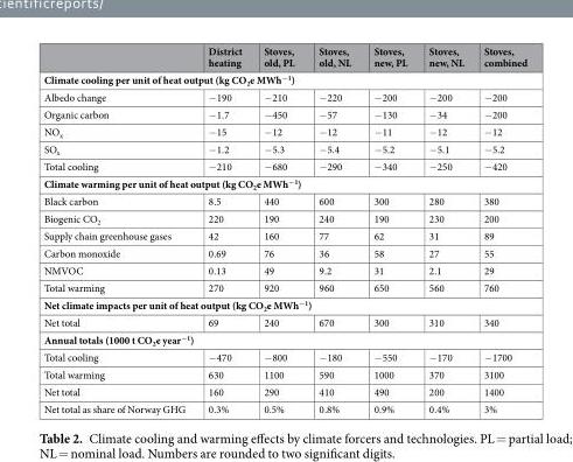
<table><thead><tr><td></td><td>District heating</td><td>Stoves, old, PL</td><td>Stoves, old, NL</td><td>Stoves, new, PL</td><td>Stoves, new, NL</td><td>Stoves, combined</td></tr></thead><tbody><tr><td colspan="7">Climate cooling per unit of heat output (kg CO<sub>2</sub>e MWh<sup>−1</sup>)</td></tr><tr><td>Albedo change</td><td>−190</td><td>−210</td><td>−220</td><td>−200</td><td>−200</td><td>−200</td></tr><tr><td>Organic carbon</td><td>−1.7</td><td>−450</td><td>−57</td><td>−130</td><td>−34</td><td>−200</td></tr><tr><td>NO<sub>x</sub></td><td>−15</td><td>−12</td><td>−12</td><td>−11</td><td>−12</td><td>−12</td></tr><tr><td>SO<sub>x</sub></td><td>−1.2</td><td>−5.3</td><td>−5.4</td><td>−5.2</td><td>−5.1</td><td>−5.2</td></tr><tr><td>Total cooling</td><td>−210</td><td>−680</td><td>−290</td><td>−340</td><td>−250</td><td>−420</td></tr><tr><td colspan="7">Climate warming per unit of heat output (kg CO<sub>2</sub>e MWh<sup>−1</sup>)</td></tr><tr><td>Black carbon</td><td>8.5</td><td>440</td><td>600</td><td>300</td><td>280</td><td>380</td></tr><tr><td>Biogenic CO<sub>2</sub></td><td>220</td><td>190</td><td>240</td><td>190</td><td>230</td><td>200</td></tr><tr><td>Supply chain greenhouse gases</td><td>42</td><td>160</td><td>77</td><td>62</td><td>31</td><td>89</td></tr><tr><td>Carbon monoxide</td><td>0.69</td><td>76</td><td>36</td><td>58</td><td>27</td><td>55</td></tr><tr><td>NMVOC</td><td>0.13</td><td>49</td><td>9.2</td><td>31</td><td>2.1</td><td>29</td></tr><tr><td>Total warming</td><td>270</td><td>920</td><td>960</td><td>650</td><td>560</td><td>760</td></tr><tr><td colspan="7">Net climate impacts per unit of heat output (kg CO<sub>2</sub>e MWh<sup>−1</sup>)</td></tr><tr><td>Net total</td><td>69</td><td>240</td><td>670</td><td>300</td><td>310</td><td>340</td></tr><tr><td colspan="7">Annual totals (1000 t CO<sub>2</sub>e year<sup>−1</sup>)</td></tr><tr><td>Total cooling</td><td>−470</td><td>−800</td><td>−180</td><td>−550</td><td>−170</td><td>−1700</td></tr><tr><td>Total warming</td><td>630</td><td>1100</td><td>590</td><td>1000</td><td>370</td><td>3100</td></tr><tr><td>Net total</td><td>160</td><td>290</td><td>410</td><td>490</td><td>200</td><td>1400</td></tr><tr><td>Net total as share of Norway GHG</td><td>0.3%</td><td>0.5%</td><td>0.8%</td><td>0.9%</td><td>0.4%</td><td>3%</td></tr></tbody></table>